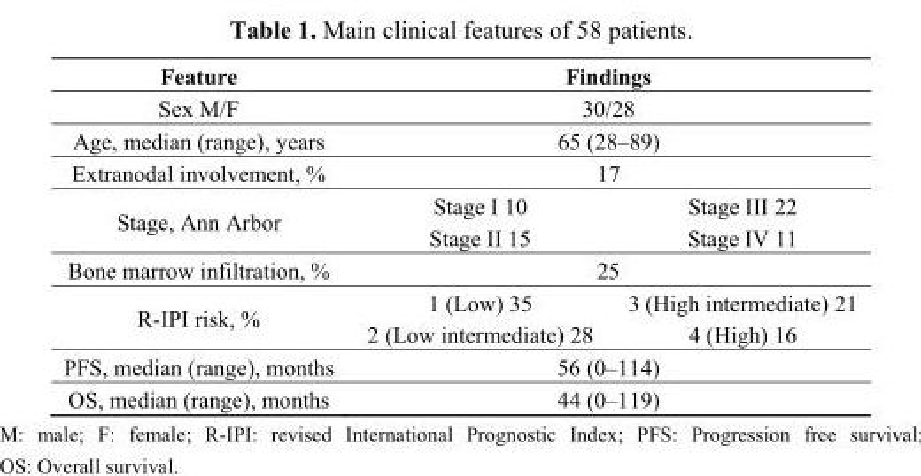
<table><thead><tr><td>Feature</td><td colspan="2">Findings</td></tr></thead><tbody><tr><td>Sex M/F</td><td colspan="2">30/28</td></tr><tr><td>Age, median (range), years</td><td colspan="2">65 (28–89)</td></tr><tr><td>Extranodal involvement, %</td><td colspan="2">17</td></tr><tr><td rowspan="2">Stage, Ann Arbor</td><td>Stage I 10</td><td>Stage III 22</td></tr><tr><td>Stage II 15</td><td>Stage IV 11</td></tr><tr><td>Bone marrow infiltration, %</td><td colspan="2">25</td></tr><tr><td rowspan="2">R-IPI risk, %</td><td>1 (Low) 35</td><td>3 (High intermediate) 21</td></tr><tr><td>2 (Low intermediate) 28</td><td>4 (High) 16</td></tr><tr><td>PFS, median (range), months</td><td colspan="2">56 (0–114)</td></tr><tr><td>OS, median (range), months</td><td colspan="2">44 (0–119)</td></tr></tbody></table>